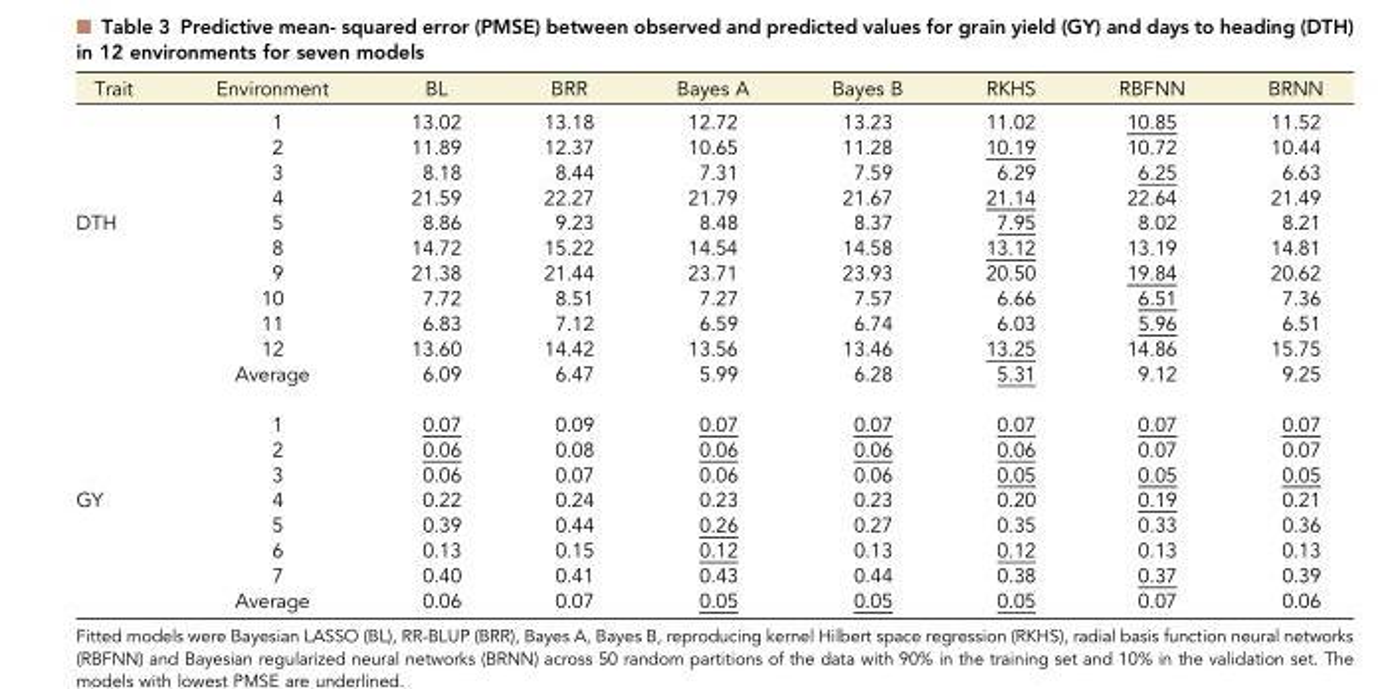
<table><thead><tr><td>Trait</td><td>Environment</td><td>BL</td><td>BRR</td><td>Bayes A</td><td>Bayes B</td><td>RKHS</td><td>RBFNN</td><td>BRNN</td></tr></thead><tbody><tr><td></td><td>1</td><td>13.02</td><td>13.18</td><td>12.72</td><td>13.23</td><td>11.02</td><td>10.85</td><td>11.52</td></tr><tr><td></td><td>2</td><td>11.89</td><td>12.37</td><td>10.65</td><td>11.28</td><td>10.19</td><td>10.72</td><td>10.44</td></tr><tr><td></td><td>3</td><td>8.18</td><td>8.44</td><td>7.31</td><td>7.59</td><td>6.29</td><td>6.25</td><td>6.63</td></tr><tr><td></td><td>4</td><td>21.59</td><td>22.27</td><td>21.79</td><td>21.67</td><td>21.14</td><td>22.64</td><td>21.49</td></tr><tr><td rowspan="10">DTH</td><td>5</td><td>8.86</td><td>9.23</td><td>8.48</td><td>8.37</td><td>7.95</td><td>8.02</td><td>8.21</td></tr><tr><td>8</td><td>14.72</td><td>15.22</td><td>14.54</td><td>14.58</td><td>13.12</td><td>13.19</td><td>14.81</td></tr><tr><td>9</td><td>21.38</td><td>21.44</td><td>23.71</td><td>23.93</td><td>20.50</td><td>19.84</td><td>20.62</td></tr><tr><td>10</td><td>7.72</td><td>8.51</td><td>7.27</td><td>7.57</td><td>6.66</td><td>6.51</td><td>7.36</td></tr><tr><td>11</td><td>6.83</td><td>7.12</td><td>6.59</td><td>6.74</td><td>6.03</td><td>5.96</td><td>6.51</td></tr><tr><td>12</td><td>13.60</td><td>14.42</td><td>13.56</td><td>13.46</td><td>13.25</td><td>14.86</td><td>15.75</td></tr><tr><td>Average</td><td>6.09</td><td>6.47</td><td>5.99</td><td>6.28</td><td>5.31</td><td>9.12</td><td>9.25</td></tr><tr><td>1</td><td>0.07</td><td>0.09</td><td>0.07</td><td>0.07</td><td>0.07</td><td>0.07</td><td>0.07</td></tr><tr><td>2</td><td>0.06</td><td>0.08</td><td>0.06</td><td>0.06</td><td>0.06</td><td>0.07</td><td>0.07</td></tr><tr><td>3</td><td>0.06</td><td>0.07</td><td>0.06</td><td>0.06</td><td>0.05</td><td>0.05</td><td>0.05</td></tr><tr><td rowspan="5">GY</td><td>4</td><td>0.22</td><td>0.24</td><td>0.23</td><td>0.23</td><td>0.20</td><td>0.19</td><td>0.21</td></tr><tr><td>5</td><td>0.39</td><td>0.44</td><td>0.26</td><td>0.27</td><td>0.35</td><td>0.33</td><td>0.36</td></tr><tr><td>6</td><td>0.13</td><td>0.15</td><td>0.12</td><td>0.13</td><td>0.12</td><td>0.13</td><td>0.13</td></tr><tr><td>7</td><td>0.40</td><td>0.41</td><td>0.43</td><td>0.44</td><td>0.38</td><td>0.37</td><td>0.39</td></tr><tr><td>Average</td><td>0.06</td><td>0.07</td><td>0.05</td><td>0.05</td><td>0.05</td><td>0.07</td><td>0.06</td></tr></tbody></table>